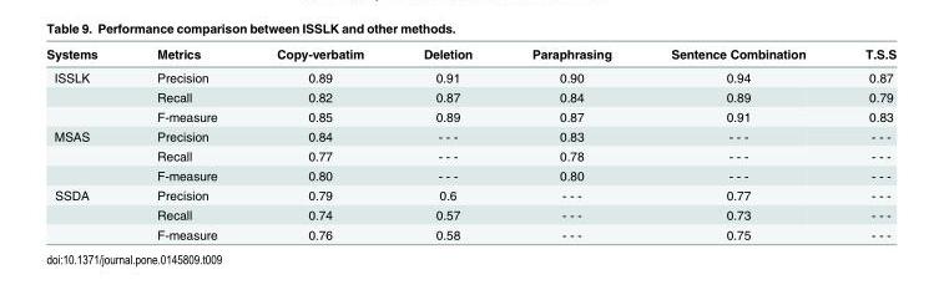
<table><thead><tr><td>Systems</td><td>Metrics</td><td>Copy-verbatim</td><td>Deletion</td><td>Paraphrasing</td><td>Sentence Combination</td><td>T.S.S</td></tr></thead><tbody><tr><td rowspan="3">ISSLK</td><td>Precision</td><td>0.89</td><td>0.91</td><td>0.90</td><td>0.94</td><td>0.87</td></tr><tr><td>Recall</td><td>0.82</td><td>0.87</td><td>0.84</td><td>0.89</td><td>0.79</td></tr><tr><td>F-measure</td><td>0.85</td><td>0.89</td><td>0.87</td><td>0.91</td><td>0.83</td></tr><tr><td rowspan="3">MSAS</td><td>Precision</td><td>0.84</td><td>- - -</td><td>0.83</td><td>- - -</td><td>- - -</td></tr><tr><td>Recall</td><td>0.77</td><td>- - -</td><td>0.78</td><td>- - -</td><td>- - -</td></tr><tr><td>F-measure</td><td>0.80</td><td>- - -</td><td>0.80</td><td>- - -</td><td>- - -</td></tr><tr><td rowspan="3">SSDA</td><td>Precision</td><td>0.79</td><td>0.6</td><td>- - -</td><td>0.77</td><td>- - -</td></tr><tr><td>Recall</td><td>0.74</td><td>0.57</td><td>- - -</td><td>0.73</td><td>- - -</td></tr><tr><td>F-measure</td><td>0.76</td><td>0.58</td><td>- - -</td><td>0.75</td><td>- - -</td></tr></tbody></table>